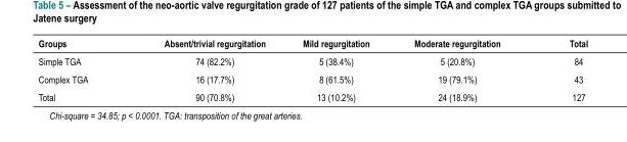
<table><thead><tr><td>Groups</td><td>Absent/trivial regurgitation</td><td>Mild regurgitation</td><td>Moderate regurgitation</td><td>Total</td></tr></thead><tbody><tr><td>Simple TGA</td><td>74 (82.2%)</td><td>5 (38.4%)</td><td>5 (20.8%)</td><td>84</td></tr><tr><td>Complex TGA</td><td>16 (17.7%)</td><td>8 (61.5%)</td><td>19 (79.1%)</td><td>43</td></tr><tr><td>Total</td><td>90 (70.8%)</td><td>13 (10.2%)</td><td>24 (18.9%)</td><td>127</td></tr></tbody></table>